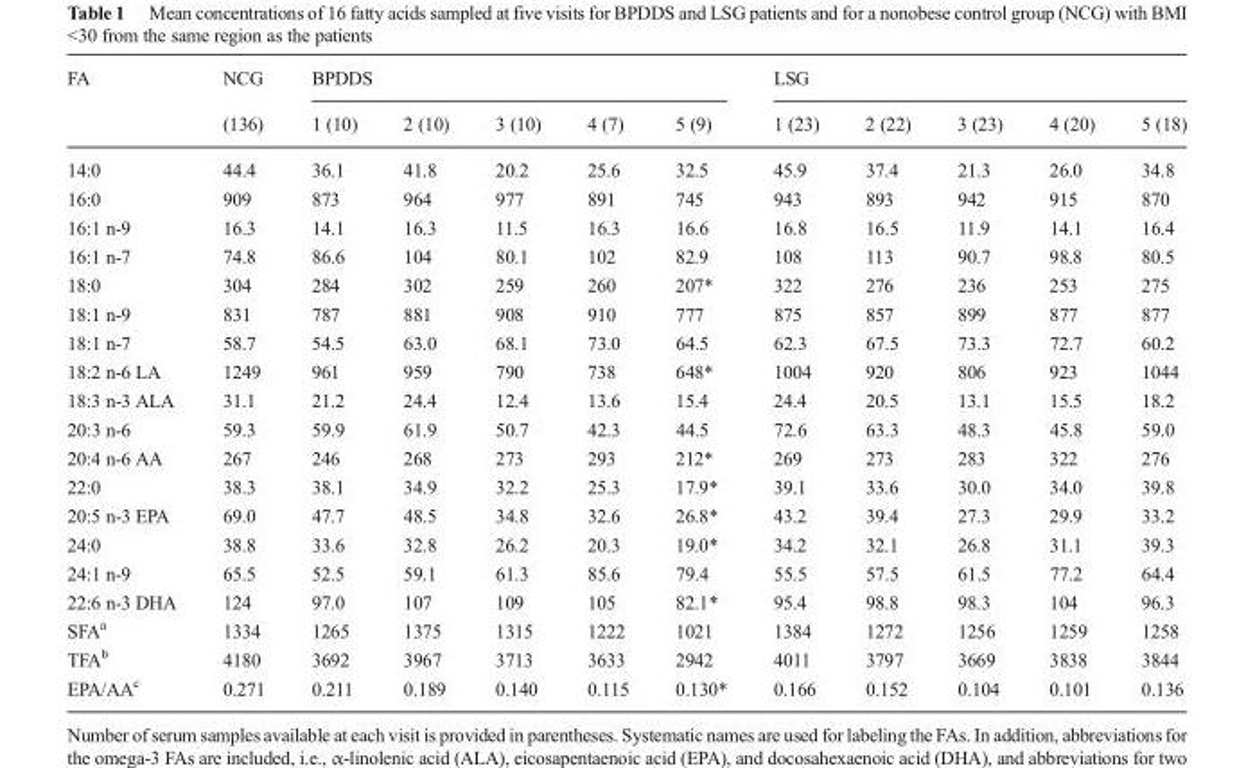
<table><thead><tr><td rowspan="2">FA</td><td rowspan="2">NCG (136)</td><td colspan="5">BPDDS</td><td colspan="5">LSG</td></tr><tr><td>1 (10)</td><td>2 (10)</td><td>3 (10)</td><td>4 (7)</td><td>5 (9)</td><td>1 (23)</td><td>2 (22)</td><td>3 (23)</td><td>4 (20)</td><td>5 (18)</td></tr></thead><tbody><tr><td>14:0</td><td>44.4</td><td>36.1</td><td>41.8</td><td>20.2</td><td>25.6</td><td>32.5</td><td>45.9</td><td>37.4</td><td>21.3</td><td>26.0</td><td>34.8</td></tr><tr><td>16:0</td><td>909</td><td>873</td><td>964</td><td>977</td><td>891</td><td>745</td><td>943</td><td>893</td><td>942</td><td>915</td><td>870</td></tr><tr><td>16:1 n-9</td><td>16.3</td><td>14.1</td><td>16.3</td><td>11.5</td><td>16.3</td><td>16.6</td><td>16.8</td><td>16.5</td><td>11.9</td><td>14.1</td><td>16.4</td></tr><tr><td>16:1 n-7</td><td>74.8</td><td>86.6</td><td>104</td><td>80.1</td><td>102</td><td>82.9</td><td>108</td><td>113</td><td>90.7</td><td>98.8</td><td>80.5</td></tr><tr><td>18:0</td><td>304</td><td>284</td><td>302</td><td>259</td><td>260</td><td>207*</td><td>322</td><td>276</td><td>236</td><td>253</td><td>275</td></tr><tr><td>18:1 n-9</td><td>831</td><td>787</td><td>881</td><td>908</td><td>910</td><td>777</td><td>875</td><td>857</td><td>899</td><td>877</td><td>877</td></tr><tr><td>18:1 n-7</td><td>58.7</td><td>54.5</td><td>63.0</td><td>68.1</td><td>73.0</td><td>64.5</td><td>62.3</td><td>67.5</td><td>73.3</td><td>72.7</td><td>60.2</td></tr><tr><td>18:2 n-6 LA</td><td>1249</td><td>961</td><td>959</td><td>790</td><td>738</td><td>648*</td><td>1004</td><td>920</td><td>806</td><td>923</td><td>1044</td></tr><tr><td>18:3 n-3 ALA</td><td>31.1</td><td>21.2</td><td>24.4</td><td>12.4</td><td>13.6</td><td>15.4</td><td>24.4</td><td>20.5</td><td>13.1</td><td>15.5</td><td>18.2</td></tr><tr><td>20:3 n-6</td><td>59.3</td><td>59.9</td><td>61.9</td><td>50.7</td><td>42.3</td><td>44.5</td><td>72.6</td><td>63.3</td><td>48.3</td><td>45.8</td><td>59.0</td></tr><tr><td>20:4 n-6 AA</td><td>267</td><td>246</td><td>268</td><td>273</td><td>293</td><td>212*</td><td>269</td><td>273</td><td>283</td><td>322</td><td>276</td></tr><tr><td>22:0</td><td>38.3</td><td>38.1</td><td>34.9</td><td>32.2</td><td>25.3</td><td>17.9*</td><td>39.1</td><td>33.6</td><td>30.0</td><td>34.0</td><td>39.8</td></tr><tr><td>20:5 n-3 EPA</td><td>69.0</td><td>47.7</td><td>48.5</td><td>34.8</td><td>32.6</td><td>26.8*</td><td>43.2</td><td>39.4</td><td>27.3</td><td>29.9</td><td>33.2</td></tr><tr><td>24:0</td><td>38.8</td><td>33.6</td><td>32.8</td><td>26.2</td><td>20.3</td><td>19.0*</td><td>34.2</td><td>32.1</td><td>26.8</td><td>31.1</td><td>39.3</td></tr><tr><td>24:1 n-9</td><td>65.5</td><td>52.5</td><td>59.1</td><td>61.3</td><td>85.6</td><td>79.4</td><td>55.5</td><td>57.5</td><td>61.5</td><td>77.2</td><td>64.4</td></tr><tr><td>22:6 n-3 DHA</td><td>124</td><td>97.0</td><td>107</td><td>109</td><td>105</td><td>82.1*</td><td>95.4</td><td>98.8</td><td>98.3</td><td>104</td><td>96.3</td></tr><tr><td>SFA<sup>a</sup></td><td>1334</td><td>1265</td><td>1375</td><td>1315</td><td>1222</td><td>1021</td><td>1384</td><td>1272</td><td>1256</td><td>1259</td><td>1258</td></tr><tr><td>TFA<sup>b</sup></td><td>4180</td><td>3692</td><td>3967</td><td>3713</td><td>3633</td><td>2942</td><td>4011</td><td>3797</td><td>3669</td><td>3838</td><td>3844</td></tr><tr><td>EPA/AA<sup>c</sup></td><td>0.271</td><td>0.211</td><td>0.189</td><td>0.140</td><td>0.115</td><td>0.130*</td><td>0.166</td><td>0.152</td><td>0.104</td><td>0.101</td><td>0.136</td></tr></tbody></table>